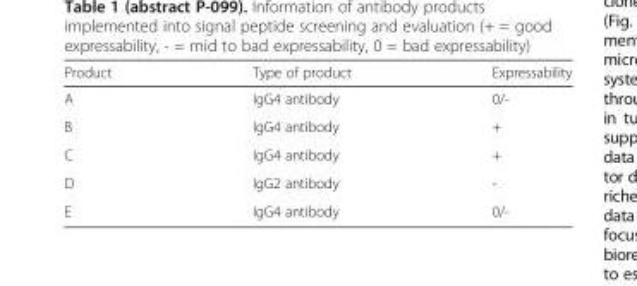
<table><thead><tr><td>Product</td><td>Type of product</td><td>Expressability</td></tr></thead><tbody><tr><td>A</td><td>IgG4 antibody</td><td>0/-</td></tr><tr><td>B</td><td>IgG4 antibody</td><td>+</td></tr><tr><td>C</td><td>IgG4 antibody</td><td>+</td></tr><tr><td>D</td><td>IgG2 antibody</td><td>-</td></tr><tr><td>E</td><td>IgG4 antibody</td><td>0/-</td></tr></tbody></table>